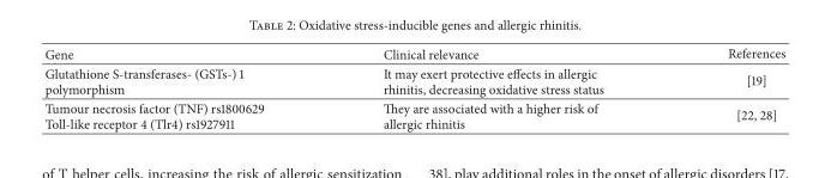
<table><thead><tr><td>Gene</td><td>Clinical relevance</td><td>References</td></tr></thead><tbody><tr><td>Glutathione S-transferases- (GSTs-) 1 polymorphism</td><td>It may exert protective effects in allergic rhinitis, decreasing oxidative stress status</td><td>[19]</td></tr><tr><td>Tumour necrosis factor (TNF) rs1800629 Toll-like receptor 4 (Tlr4) rs1927911</td><td>They are associated with a higher risk of allergic rhinitis</td><td>[22, 28]</td></tr></tbody></table>